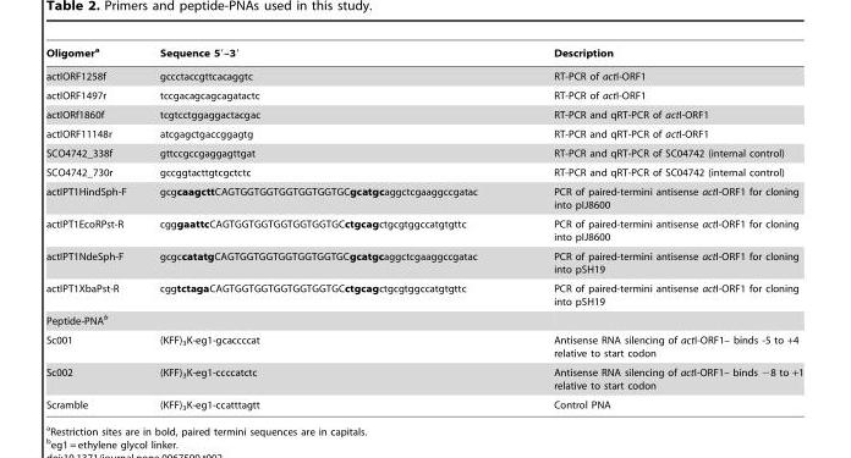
<table><thead><tr><td>Oligomer<sup>a</sup></td><td>Sequence 5′–3′</td><td>Description</td></tr></thead><tbody><tr><td>actIORF1258f</td><td>gccctaccgttcacaggtc</td><td>RT-PCR of actI-ORF1</td></tr><tr><td>actIORF1497r</td><td>tccgacagcagcagatactc</td><td>RT-PCR of actI-ORF1</td></tr><tr><td>actIORf1860f</td><td>tcgtcctggaggactacgac</td><td>RT-PCR and qRT-PCR of actI-ORF1</td></tr><tr><td>actIORF11148r</td><td>atcgagctgaccggagtg</td><td>RT-PCR and qRT-PCR of actI-ORF1</td></tr><tr><td>SCO4742_338f</td><td>gttccgccgaggagttgat</td><td>RT-PCR and qRT-PCR of SC04742 (internal control)</td></tr><tr><td>SCO4742_730r</td><td>gccggtacttgtcgctctc</td><td>RT-PCR and qRT-PCR of SC04742 (internal control)</td></tr><tr><td>actIPT1HindSph-F</td><td>gcgcaagcttCAGTGGTGGTGGTGGTGGTGCgcatgcaggctcgaaggccgatac</td><td>PCR of paired-termini antisense actI-ORF1 for cloning into pIJ8600</td></tr><tr><td>actIPT1EcoRPst-R</td><td>cgggaattcCAGTGGTGGTGGTGGTGGTGCctgcagctgcgtggccatgtgttc</td><td>PCR of paired-termini antisense actI-ORF1 for cloning into pIJ8600</td></tr><tr><td>actIPT1NdeSph-F</td><td>gcgccatatgCAGTGGTGGTGGTGGTGGTGCgcatgcaggctcgaaggccgatac</td><td>PCR of paired-termini antisense actI-ORF1 for cloning into pSH19</td></tr><tr><td>actIPT1XbaPst-R</td><td>cggtctagaCAGTGGTGGTGGTGGTGGTGCctgcagctgcgtggccatgtgttc</td><td>PCR of paired-termini antisense actI-ORF1 for cloning into pSH19</td></tr><tr><td colspan="3">Peptide-PNA<sup>b</sup></td></tr><tr><td>Sc001</td><td>(KFF)<sub>3</sub>K-eg1-gcaccccat</td><td>Antisense RNA silencing of actI-ORF1– binds -5 to +4 relative to start codon</td></tr><tr><td>Sc002</td><td>(KFF)<sub>3</sub>K-eg1-ccccatctc</td><td>Antisense RNA silencing of actI-ORF1– binds −8 to +1 relative to start codon</td></tr><tr><td>Scramble</td><td>(KFF)<sub>3</sub>K-eg1-ccatttagtt</td><td>Control PNA</td></tr></tbody></table>